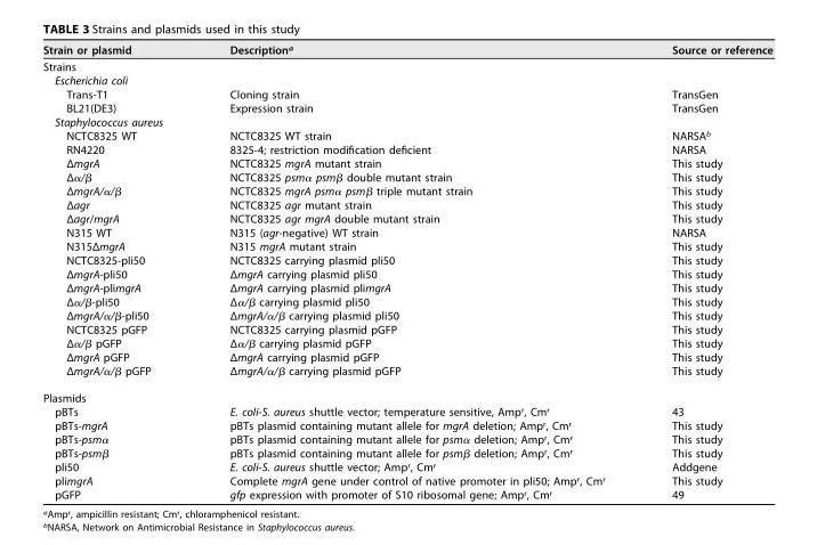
<table><thead><tr><td>Strain or plasmid</td><td>Description<sup>a</sup></td><td>Source or reference</td></tr></thead><tbody><tr><td colspan="3">Strains</td></tr><tr><td colspan="3">Escherichia coli</td></tr><tr><td>Trans-T1</td><td>Cloning strain</td><td>TransGen</td></tr><tr><td>BL21(DE3)</td><td>Expression strain</td><td>TransGen</td></tr><tr><td colspan="3">Staphylococcus aureus</td></tr><tr><td>NCTC8325 WT</td><td>NCTC8325 WT strain</td><td>NARSA<sup>b</sup></td></tr><tr><td>RN4220</td><td>8325-4; restriction modification deficient</td><td>NARSA</td></tr><tr><td>ΔmgrA</td><td>NCTC8325 mgrA mutant strain</td><td>This study</td></tr><tr><td>Δα/β</td><td>NCTC8325 psmα psmβ double mutant strain</td><td>This study</td></tr><tr><td>ΔmgrA/α/β</td><td>NCTC8325 mgrA psmα psmβ triple mutant strain</td><td>This study</td></tr><tr><td>Δagr</td><td>NCTC8325 agr mutant strain</td><td>This study</td></tr><tr><td>Δagr/mgrA</td><td>NCTC8325 agr mgrA double mutant strain</td><td>This study</td></tr><tr><td>N315 WT</td><td>N315 (agr-negative) WT strain</td><td>NARSA</td></tr><tr><td>N315ΔmgrA</td><td>N315 mgrA mutant strain</td><td>This study</td></tr><tr><td>NCTC8325-pli50</td><td>NCTC8325 carrying plasmid pli50</td><td>This study</td></tr><tr><td>ΔmgrA-pli50</td><td>ΔmgrA carrying plasmid pli50</td><td>This study</td></tr><tr><td>ΔmgrA-plimgrA</td><td>ΔmgrA carrying plasmid plimgrA</td><td>This study</td></tr><tr><td>Δα/β-pli50</td><td>Δα/β carrying plasmid pli50</td><td>This study</td></tr><tr><td>ΔmgrA/α/β-pli50</td><td>ΔmgrA/α/β carrying plasmid pli50</td><td>This study</td></tr><tr><td>NCTC8325 pGFP</td><td>NCTC8325 carrying plasmid pGFP</td><td>This study</td></tr><tr><td>Δα/β pGFP</td><td>Δα/β carrying plasmid pGFP</td><td>This study</td></tr><tr><td>ΔmgrA pGFP</td><td>ΔmgrA carrying plasmid pGFP</td><td>This study</td></tr><tr><td>ΔmgrA/α/β pGFP</td><td>ΔmgrA/α/β carrying plasmid pGFP</td><td>This study</td></tr><tr><td colspan="3">Plasmids</td></tr><tr><td>pBTs</td><td>E. coli-S. aureus shuttle vector; temperature sensitive, Amp<sup>r</sup>, Cm<sup>r</sup></td><td>43</td></tr><tr><td>pBTs-mgrA</td><td>pBTs plasmid containing mutant allele for mgrA deletion; Amp<sup>r</sup>, Cm<sup>r</sup></td><td>This study</td></tr><tr><td>pBTs-psmα</td><td>pBTs plasmid containing mutant allele for psmα deletion; Amp<sup>r</sup>, Cm<sup>r</sup></td><td>This study</td></tr><tr><td>pBTs-psmβ</td><td>pBTs plasmid containing mutant allele for psmβ deletion; Amp<sup>r</sup>, Cm<sup>r</sup></td><td>This study</td></tr><tr><td>pli50</td><td>E. coli-S. aureus shuttle vector; Amp<sup>r</sup>, Cm<sup>r</sup></td><td>Addgene</td></tr><tr><td>plimgrA</td><td>Complete mgrA gene under control of native promoter in pli50; Amp<sup>r</sup>, Cm<sup>r</sup></td><td>This study</td></tr><tr><td>pGFP</td><td>gfp expression with promoter of S10 ribosomal gene; Amp<sup>r</sup>, Cm<sup>r</sup></td><td>49</td></tr></tbody></table>